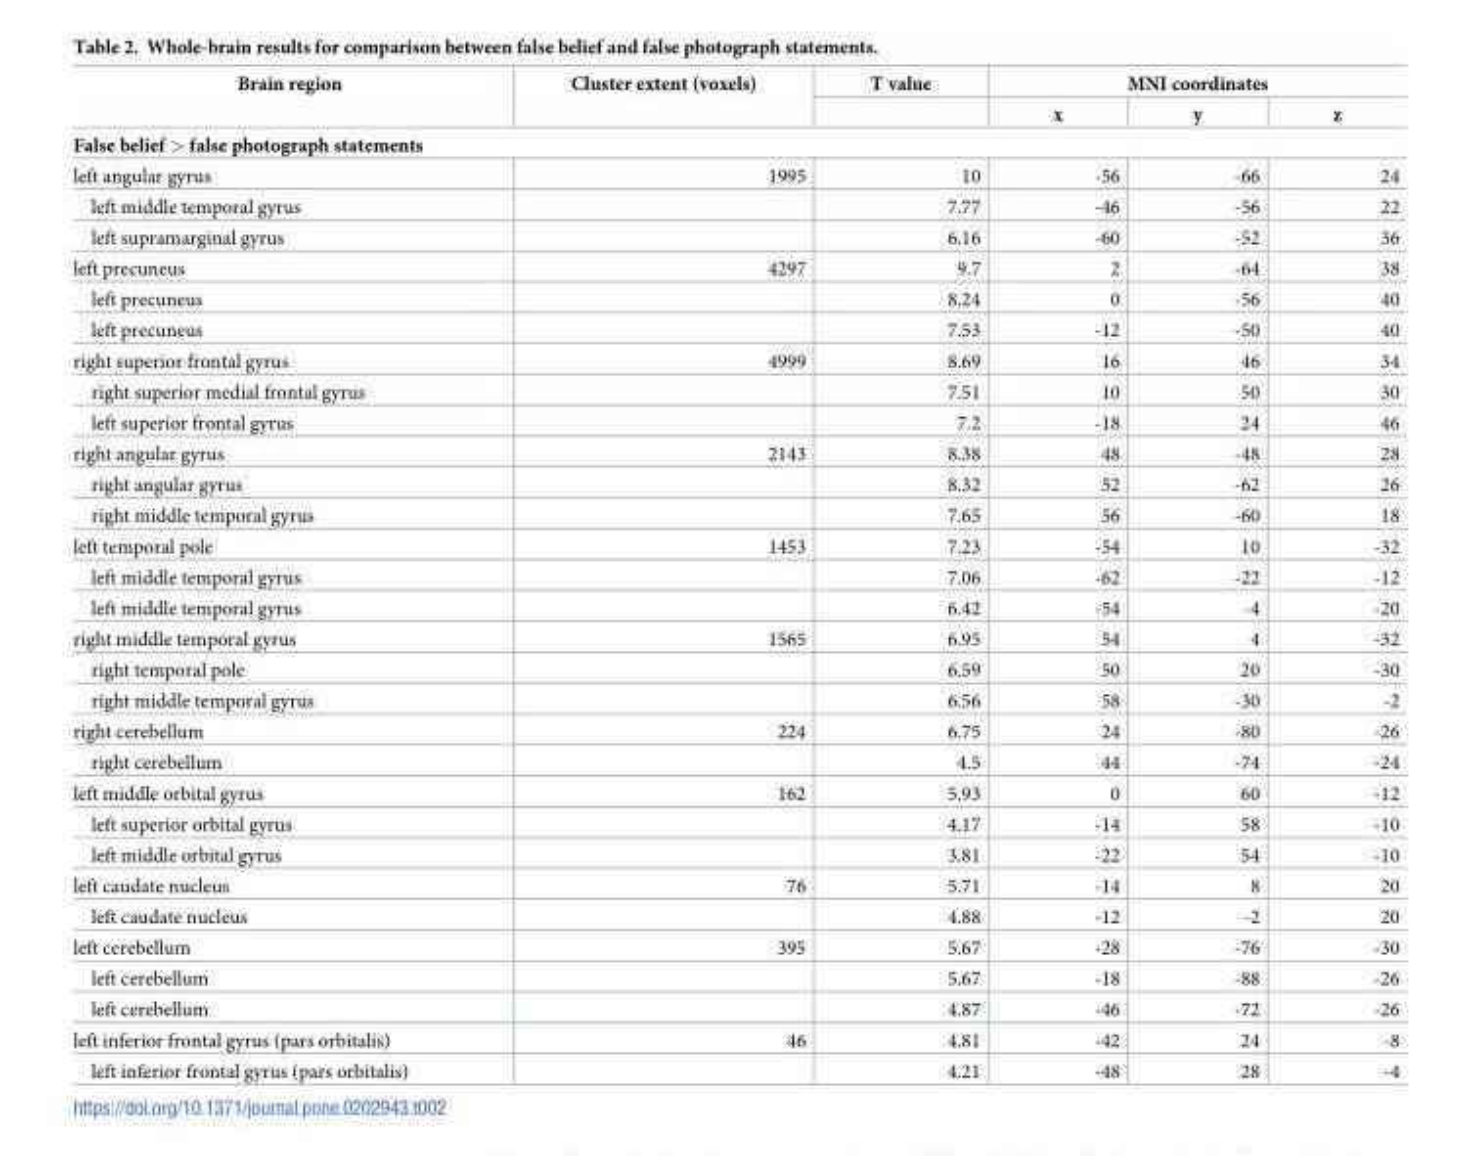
<table><thead><tr><td rowspan="2">Brain region</td><td rowspan="2">Cluster extent (voxels)</td><td rowspan="2">T value</td><td colspan="3">MNI coordinates</td></tr><tr><td>x</td><td>y</td><td>z</td></tr></thead><tbody><tr><td colspan="6">False belief &gt; false photograph statements</td></tr><tr><td>left angular gyrus</td><td>1995</td><td>10</td><td>-56</td><td>-66</td><td>24</td></tr><tr><td>left middle temporal gyrus</td><td></td><td>7.77</td><td>-46</td><td>-56</td><td>22</td></tr><tr><td>left supramarginal gyrus</td><td></td><td>6.16</td><td>-60</td><td>-52</td><td>36</td></tr><tr><td>left precuneus</td><td>4297</td><td>9.7</td><td>2</td><td>-64</td><td>38</td></tr><tr><td>left precuneus</td><td></td><td>8.24</td><td>0</td><td>-56</td><td>40</td></tr><tr><td>left precuneus</td><td></td><td>7.53</td><td>-12</td><td>-50</td><td>40</td></tr><tr><td>right superior frontal gyrus</td><td>4999</td><td>8.69</td><td>16</td><td>46</td><td>34</td></tr><tr><td>right superior medial frontal gyrus</td><td></td><td>7.51</td><td>10</td><td>50</td><td>30</td></tr><tr><td>left superior frontal gyrus</td><td></td><td>7.2</td><td>-18</td><td>24</td><td>46</td></tr><tr><td>right angular gyrus</td><td>2143</td><td>8.38</td><td>48</td><td>-48</td><td>28</td></tr><tr><td>right angular gyrus</td><td></td><td>8.32</td><td>52</td><td>-62</td><td>26</td></tr><tr><td>right middle temporal gyrus</td><td></td><td>7.65</td><td>56</td><td>-60</td><td>18</td></tr><tr><td>left temporal pole</td><td>1453</td><td>7.23</td><td>-54</td><td>10</td><td>-32</td></tr><tr><td>left middle temporal gyrus</td><td></td><td>7.06</td><td>-62</td><td>-22</td><td>-12</td></tr><tr><td>left middle temporal gyrus</td><td></td><td>6.42</td><td>-54</td><td>-4</td><td>-20</td></tr><tr><td>right middle temporal gyrus</td><td>1565</td><td>6.95</td><td>54</td><td>4</td><td>-32</td></tr><tr><td>right temporal pole</td><td></td><td>6.59</td><td>50</td><td>20</td><td>-30</td></tr><tr><td>right middle temporal gyrus</td><td></td><td>6.56</td><td>58</td><td>-30</td><td>-2</td></tr><tr><td>right cerebellum</td><td>224</td><td>6.75</td><td>24</td><td>-80</td><td>-26</td></tr><tr><td>right cerebellum</td><td></td><td>4.5</td><td>44</td><td>-74</td><td>-24</td></tr><tr><td>left middle orbital gyrus</td><td>162</td><td>5.93</td><td>0</td><td>60</td><td>-12</td></tr><tr><td>left superior orbital gyrus</td><td></td><td>4.17</td><td>-14</td><td>58</td><td>-10</td></tr><tr><td>left middle orbital gyrus</td><td></td><td>3.81</td><td>-22</td><td>54</td><td>-10</td></tr><tr><td>left caudate nucleus</td><td>76</td><td>5.71</td><td>-14</td><td>8</td><td>20</td></tr><tr><td>left caudate nucleus</td><td></td><td>4.88</td><td>-12</td><td>-2</td><td>20</td></tr><tr><td>left cerebellum</td><td>395</td><td>5.67</td><td>-28</td><td>-76</td><td>-30</td></tr><tr><td>left cerebellum</td><td></td><td>5.67</td><td>-18</td><td>-88</td><td>-26</td></tr><tr><td>left cerebellum</td><td></td><td>4.87</td><td>-46</td><td>-72</td><td>-26</td></tr><tr><td>left inferior frontal gyrus (pars orbitalis)</td><td>46</td><td>4.81</td><td>-42</td><td>24</td><td>-8</td></tr><tr><td>left inferior frontal gyrus (pars orbitalis)</td><td></td><td>4.21</td><td>-48</td><td>28</td><td>-4</td></tr></tbody></table>